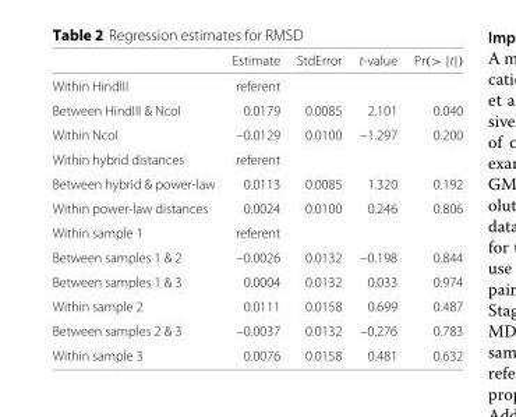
<table><thead><tr><td></td><td>Estimate</td><td>StdError</td><td>t-value</td><td>Pr(&gt; |t|)</td></tr></thead><tbody><tr><td>Within HindIII</td><td>referent</td><td></td><td></td><td></td></tr><tr><td>Between HindIII &amp; NcoI</td><td>0.0179</td><td>0.0085</td><td>2.101</td><td>0.040</td></tr><tr><td>Within NcoI</td><td>–0.0129</td><td>0.0100</td><td>–1.297</td><td>0.200</td></tr><tr><td>Within hybrid distances</td><td>referent</td><td></td><td></td><td></td></tr><tr><td>Between hybrid &amp; power-law</td><td>0.0113</td><td>0.0085</td><td>1.320</td><td>0.192</td></tr><tr><td>Within power-law distances</td><td>0.0024</td><td>0.0100</td><td>0.246</td><td>0.806</td></tr><tr><td>Within sample 1</td><td>referent</td><td></td><td></td><td></td></tr><tr><td>Between samples 1 &amp; 2</td><td>–0.0026</td><td>0.0132</td><td>–0.198</td><td>0.844</td></tr><tr><td>Between samples 1 &amp; 3</td><td>0.0004</td><td>0.0132</td><td>0.033</td><td>0.974</td></tr><tr><td>Within sample 2</td><td>0.0111</td><td>0.0158</td><td>0.699</td><td>0.487</td></tr><tr><td>Between samples 2 &amp; 3</td><td>–0.0037</td><td>0.0132</td><td>–0.276</td><td>0.783</td></tr><tr><td>Within sample 3</td><td>0.0076</td><td>0.0158</td><td>0.481</td><td>0.632</td></tr></tbody></table>